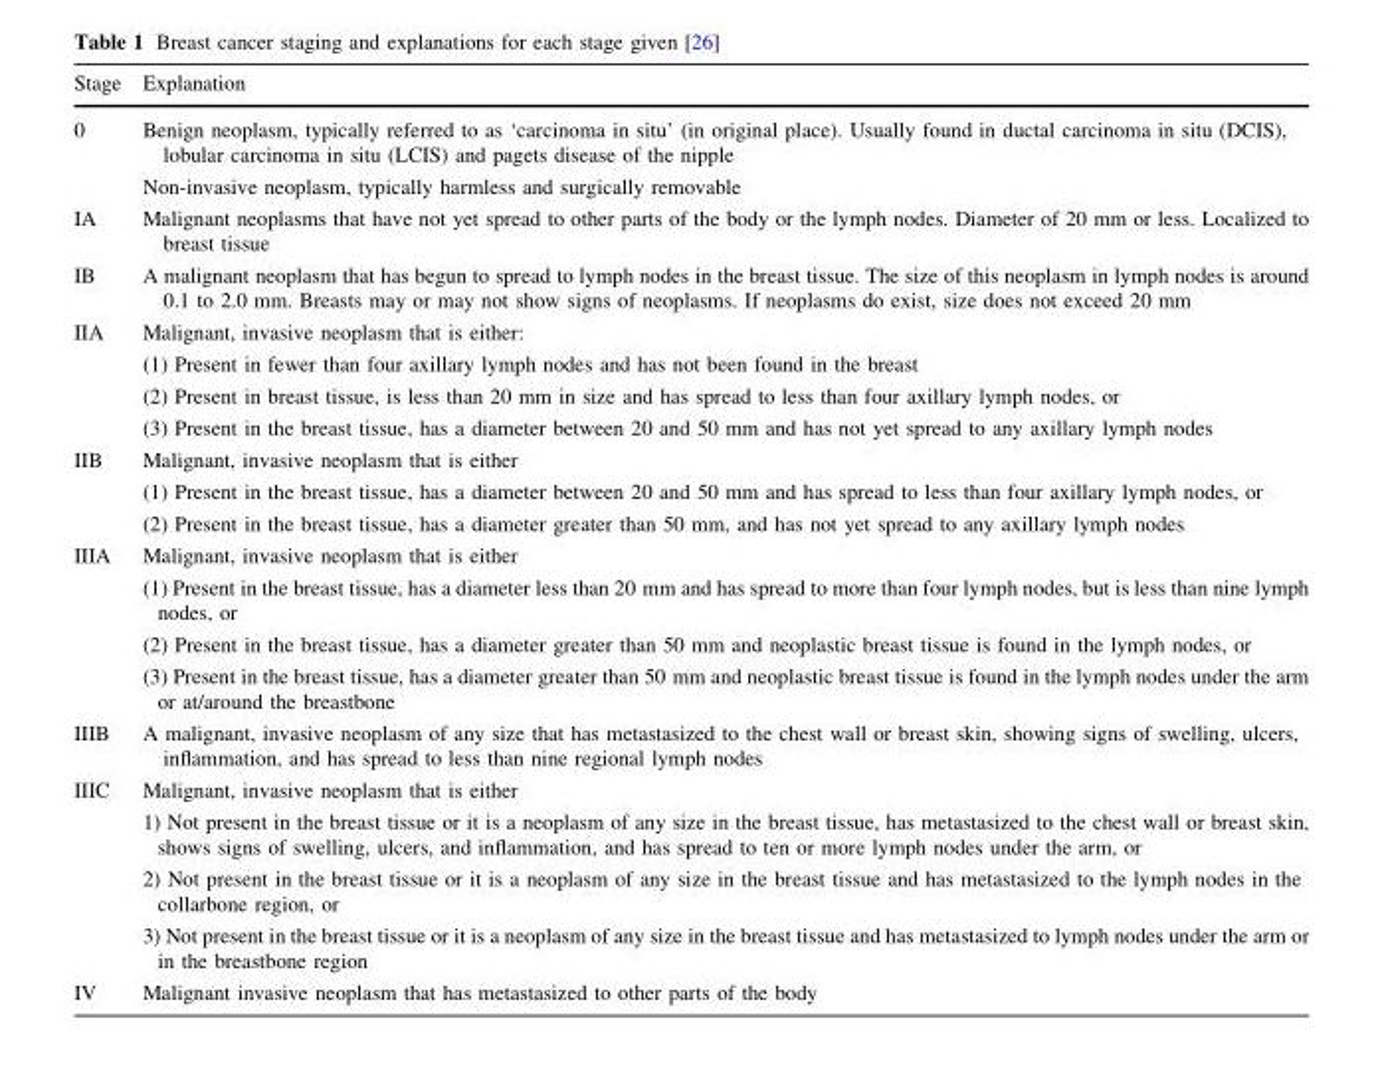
<table><thead><tr><td>Stage</td><td>Explanation</td></tr></thead><tbody><tr><td>0</td><td>Benign neoplasm, typically referred to as ‘carcinoma in situ’ (in original place). Usually found in ductal carcinoma in situ (DCIS), lobular carcinoma in situ (LCIS) and pagets disease of the nipple Non-invasive neoplasm, typically harmless and surgically removable</td></tr><tr><td>IA</td><td>Malignant neoplasms that have not yet spread to other parts of the body or the lymph nodes. Diameter of 20 mm or less. Localized to breast tissue</td></tr><tr><td>IB</td><td>A malignant neoplasm that has begun to spread to lymph nodes in the breast tissue. The size of this neoplasm in lymph nodes is around 0.1 to 2.0 mm. Breasts may or may not show signs of neoplasms. If neoplasms do exist, size does not exceed 20 mm</td></tr><tr><td>IIA</td><td>Malignant, invasive neoplasm that is either: (1) Present in fewer than four axillary lymph nodes and has not been found in the breast (2) Present in breast tissue, is less than 20 mm in size and has spread to less than four axillary lymph nodes, or (3) Present in the breast tissue, has a diameter between 20 and 50 mm and has not yet spread to any axillary lymph nodes</td></tr><tr><td>IIB</td><td>Malignant, invasive neoplasm that is either (1) Present in the breast tissue, has a diameter between 20 and 50 mm and has spread to less than four axillary lymph nodes, or (2) Present in the breast tissue, has a diameter greater than 50 mm, and has not yet spread to any axillary lymph nodes</td></tr><tr><td>IIIA</td><td>Malignant, invasive neoplasm that is either (1) Present in the breast tissue, has a diameter less than 20 mm and has spread to more than four lymph nodes, but is less than nine lymph nodes, or (2) Present in the breast tissue, has a diameter greater than 50 mm and neoplastic breast tissue is found in the lymph nodes, or (3) Present in the breast tissue, has a diameter greater than 50 mm and neoplastic breast tissue is found in the lymph nodes under the arm or at/around the breastbone</td></tr><tr><td>IIIB</td><td>A malignant, invasive neoplasm of any size that has metastasized to the chest wall or breast skin, showing signs of swelling, ulcers, inflammation, and has spread to less than nine regional lymph nodes</td></tr><tr><td>IIIC</td><td>Malignant, invasive neoplasm that is either 1) Not present in the breast tissue or it is a neoplasm of any size in the breast tissue, has metastasized to the chest wall or breast skin, shows signs of swelling, ulcers, and inflammation, and has spread to ten or more lymph nodes under the arm, or 2) Not present in the breast tissue or it is a neoplasm of any size in the breast tissue and has metastasized to the lymph nodes in the collarbone region, or 3) Not present in the breast tissue or it is a neoplasm of any size in the breast tissue and has metastasized to lymph nodes under the arm or in the breastbone region</td></tr><tr><td>IV</td><td>Malignant invasive neoplasm that has metastasized to other parts of the body</td></tr></tbody></table>